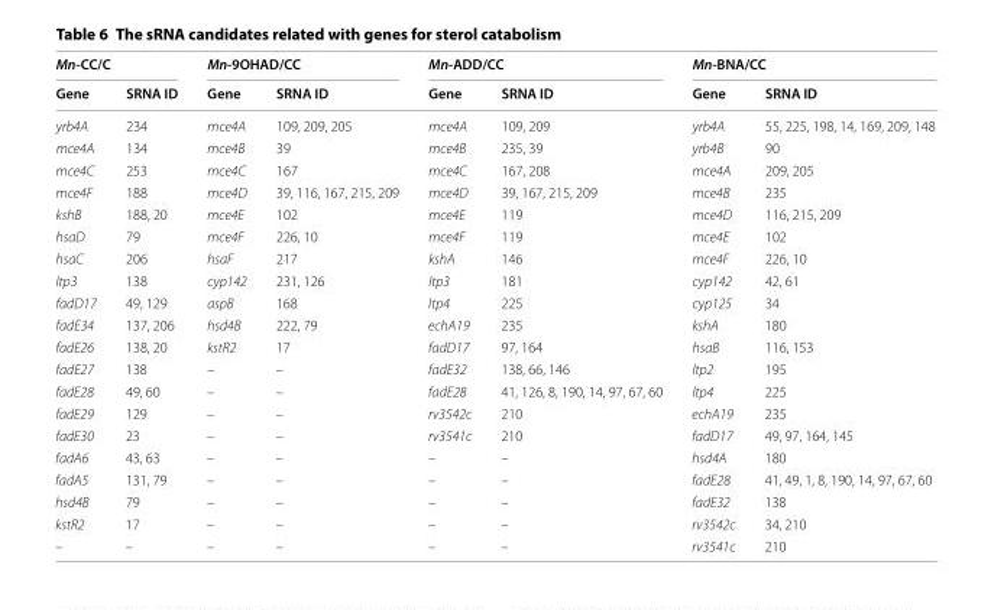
<table><thead><tr><td colspan="2">Mn-CC/C</td><td colspan="2">Mn-9OHAD/CC</td><td colspan="2">Mn-ADD/CC</td><td colspan="2">Mn-BNA/CC</td></tr><tr><td>Gene</td><td>SRNA ID</td><td>Gene</td><td>SRNA ID</td><td>Gene</td><td>SRNA ID</td><td>Gene</td><td>SRNA ID</td></tr></thead><tbody><tr><td>yrb4A</td><td>234</td><td>mce4A</td><td>109, 209, 205</td><td>mce4A</td><td>109, 209</td><td>yrb4A</td><td>55, 225, 198, 14, 169, 209, 148</td></tr><tr><td>mce4A</td><td>134</td><td>mce4B</td><td>39</td><td>mce4B</td><td>235, 39</td><td>yrb4B</td><td>90</td></tr><tr><td>mce4C</td><td>253</td><td>mce4C</td><td>167</td><td>mce4C</td><td>167, 208</td><td>mce4A</td><td>209, 205</td></tr><tr><td>mce4F</td><td>188</td><td>mce4D</td><td>39, 116, 167, 215, 209</td><td>mce4D</td><td>39, 167, 215, 209</td><td>mce4B</td><td>235</td></tr><tr><td>kshB</td><td>188, 20</td><td>mce4E</td><td>102</td><td>mce4E</td><td>119</td><td>mce4D</td><td>116, 215, 209</td></tr><tr><td>hsaD</td><td>79</td><td>mce4F</td><td>226, 10</td><td>mce4F</td><td>119</td><td>mce4E</td><td>102</td></tr><tr><td>hsaC</td><td>206</td><td>hsaF</td><td>217</td><td>kshA</td><td>146</td><td>mce4F</td><td>226, 10</td></tr><tr><td>ltp3</td><td>138</td><td>cyp142</td><td>231, 126</td><td>ltp3</td><td>181</td><td>cyp142</td><td>42, 61</td></tr><tr><td>fadD17</td><td>49, 129</td><td>aspB</td><td>168</td><td>ltp4</td><td>225</td><td>cyp125</td><td>34</td></tr><tr><td>fadE34</td><td>137, 206</td><td>hsd4B</td><td>222, 79</td><td>echA19</td><td>235</td><td>kshA</td><td>180</td></tr><tr><td>fadE26</td><td>138, 20</td><td>kstR2</td><td>17</td><td>fadD17</td><td>97, 164</td><td>hsaB</td><td>116, 153</td></tr><tr><td>fadE27</td><td>138</td><td>–</td><td>–</td><td>fadE32</td><td>138, 66, 146</td><td>ltp2</td><td>195</td></tr><tr><td>fadE28</td><td>49, 60</td><td>–</td><td>–</td><td>fadE28</td><td>41, 126, 8, 190, 14, 97, 67, 60</td><td>ltp4</td><td>225</td></tr><tr><td>fadE29</td><td>129</td><td>–</td><td>–</td><td>rv3542c</td><td>210</td><td>echA19</td><td>235</td></tr><tr><td>fadE30</td><td>23</td><td>–</td><td>–</td><td>rv3541c</td><td>210</td><td>fadD17</td><td>49, 97, 164, 145</td></tr><tr><td>fadA6</td><td>43, 63</td><td>–</td><td>–</td><td>–</td><td>–</td><td>hsd4A</td><td>180</td></tr><tr><td>fadA5</td><td>131, 79</td><td>–</td><td>–</td><td>–</td><td>–</td><td>fadE28</td><td>41, 49, 1, 8, 190, 14, 97, 67, 60</td></tr><tr><td>hsd4B</td><td>79</td><td>–</td><td>–</td><td>–</td><td>–</td><td>fadE32</td><td>138</td></tr><tr><td>kstR2</td><td>17</td><td>–</td><td>–</td><td>–</td><td>–</td><td>rv3542c</td><td>34, 210</td></tr><tr><td>–</td><td>–</td><td>–</td><td>–</td><td>–</td><td>–</td><td>rv3541c</td><td>210</td></tr></tbody></table>